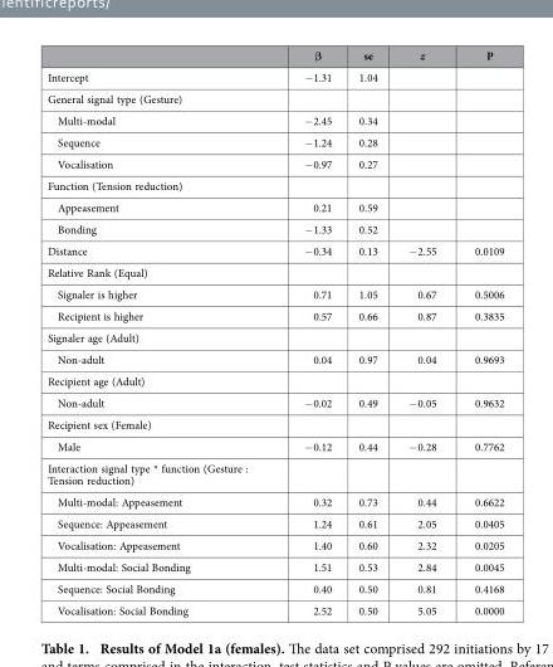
<table><thead><tr><td></td><td>b</td><td>se</td><td>z</td><td>P</td></tr></thead><tbody><tr><td>Intercept</td><td>− 1.31</td><td>1.04</td><td></td><td></td></tr><tr><td colspan="5">General signal type (Gesture)</td></tr><tr><td>Multi-modal</td><td>− 2.45</td><td>0.34</td><td></td><td></td></tr><tr><td>Sequence</td><td>− 1.24</td><td>0.28</td><td></td><td></td></tr><tr><td>Vocalisation</td><td>− 0.97</td><td>0.27</td><td></td><td></td></tr><tr><td colspan="5">Function (Tension reduction)</td></tr><tr><td>Appeasement</td><td>0.21</td><td>0.59</td><td></td><td></td></tr><tr><td>Bonding</td><td>− 1.33</td><td>0.52</td><td></td><td></td></tr><tr><td>Distance</td><td>− 0.34</td><td>0.13</td><td>− 2.55</td><td>0.0109</td></tr><tr><td colspan="5">Relative Rank (Equal)</td></tr><tr><td>Signaler is higher</td><td>0.71</td><td>1.05</td><td>0.67</td><td>0.5006</td></tr><tr><td>Recipient is higher</td><td>0.57</td><td>0.66</td><td>0.87</td><td>0.3835</td></tr><tr><td colspan="5">Signaler age (Adult)</td></tr><tr><td>Non-adult</td><td>0.04</td><td>0.97</td><td>0.04</td><td>0.9693</td></tr><tr><td colspan="5">Recipient age (Adult)</td></tr><tr><td>Non-adult</td><td>− 0.02</td><td>0.49</td><td>− 0.05</td><td>0.9632</td></tr><tr><td colspan="5">Recipient sex (Female)</td></tr><tr><td>Male</td><td>− 0.12</td><td>0.44</td><td>− 0.28</td><td>0.7762</td></tr><tr><td colspan="5">Interaction signal type * function (Gesture : Tension reduction)</td></tr><tr><td>Multi-modal: Appeasement</td><td>0.32</td><td>0.73</td><td>0.44</td><td>0.6622</td></tr><tr><td>Sequence: Appeasement</td><td>1.24</td><td>0.61</td><td>2.05</td><td>0.0405</td></tr><tr><td>Vocalisation: Appeasement</td><td>1.40</td><td>0.60</td><td>2.32</td><td>0.0205</td></tr><tr><td>Multi-modal: Social Bonding</td><td>1.51</td><td>0.53</td><td>2.84</td><td>0.0045</td></tr><tr><td>Sequence: Social Bonding</td><td>0.40</td><td>0.50</td><td>0.81</td><td>0.4168</td></tr><tr><td>Vocalisation: Social Bonding</td><td>2.52</td><td>0.50</td><td>5.05</td><td>0.0000</td></tr></tbody></table>